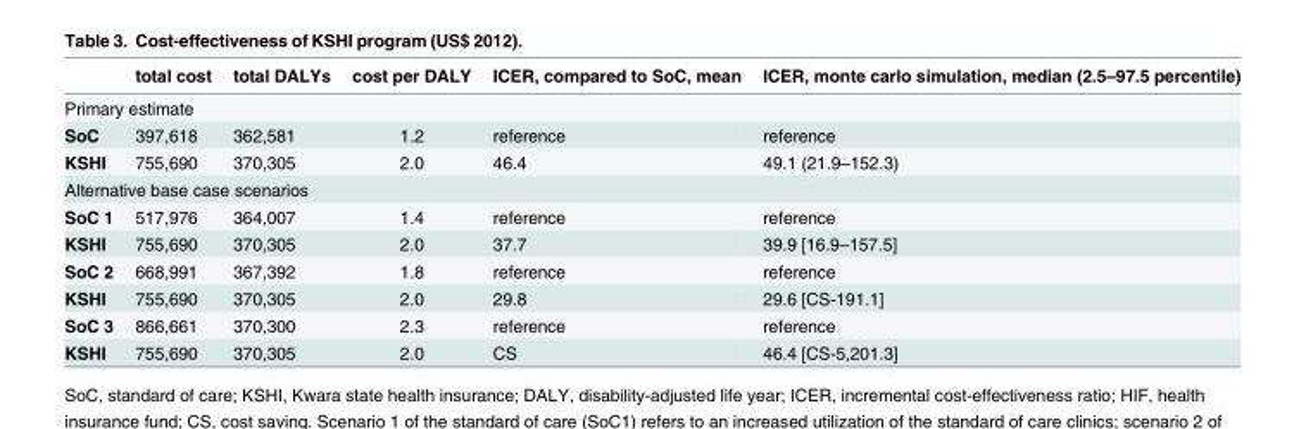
<table><thead><tr><td></td><td>total cost</td><td>total DALYs</td><td>cost per DALY</td><td>ICER, compared to SoC, mean</td><td>ICER, monte carlo simulation, median (2.5–97.5 percentile)</td></tr></thead><tbody><tr><td colspan="6">Primary estimate</td></tr><tr><td>SoC</td><td>397,618</td><td>362,581</td><td>1.2</td><td>reference</td><td>reference</td></tr><tr><td>KSHI</td><td>755,690</td><td>370,305</td><td>2.0</td><td>46.4</td><td>49.1 (21.9–152.3)</td></tr><tr><td colspan="6">Alternative base case scenarios</td></tr><tr><td>SoC 1</td><td>517,976</td><td>364,007</td><td>1.4</td><td>reference</td><td>reference</td></tr><tr><td>KSHI</td><td>755,690</td><td>370,305</td><td>2.0</td><td>37.7</td><td>39.9 [16.9–157.5]</td></tr><tr><td>SoC 2</td><td>668,991</td><td>367,392</td><td>1.8</td><td>reference</td><td>reference</td></tr><tr><td>KSHI</td><td>755,690</td><td>370,305</td><td>2.0</td><td>29.8</td><td>29.6 [CS-191.1]</td></tr><tr><td>SoC 3</td><td>866,661</td><td>370,300</td><td>2.3</td><td>reference</td><td>reference</td></tr><tr><td>KSHI</td><td>755,690</td><td>370,305</td><td>2.0</td><td>CS</td><td>46.4 [CS-5,201.3]</td></tr></tbody></table>